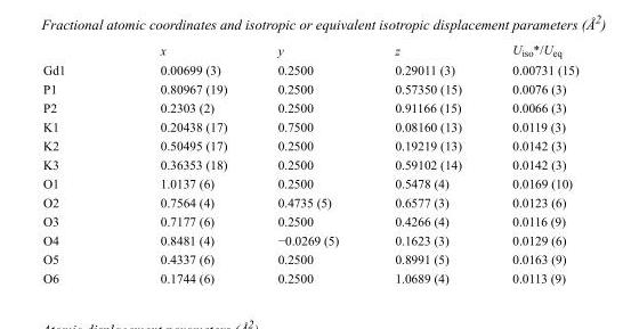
<table><thead><tr><td></td><td>x</td><td>y</td><td>z</td><td>U<sub>iso</sub>*/U<sub>eq</sub></td></tr></thead><tbody><tr><td>Gd1</td><td>0.00699 (3)</td><td>0.2500</td><td>0.29011 (3)</td><td>0.00731 (15)</td></tr><tr><td>P1</td><td>0.80967 (19)</td><td>0.2500</td><td>0.57350 (15)</td><td>0.0076 (3)</td></tr><tr><td>P2</td><td>0.2303 (2)</td><td>0.2500</td><td>0.91166 (15)</td><td>0.0066 (3)</td></tr><tr><td>K1</td><td>0.20438 (17)</td><td>0.7500</td><td>0.08160 (13)</td><td>0.0119 (3)</td></tr><tr><td>K2</td><td>0.50495 (17)</td><td>0.2500</td><td>0.19219 (13)</td><td>0.0142 (3)</td></tr><tr><td>K3</td><td>0.36353 (18)</td><td>0.2500</td><td>0.59102 (14)</td><td>0.0142 (3)</td></tr><tr><td>O1</td><td>1.0137 (6)</td><td>0.2500</td><td>0.5478 (4)</td><td>0.0169 (10)</td></tr><tr><td>O2</td><td>0.7564 (4)</td><td>0.4735 (5)</td><td>0.6577 (3)</td><td>0.0123 (6)</td></tr><tr><td>O3</td><td>0.7177 (6)</td><td>0.2500</td><td>0.4266 (4)</td><td>0.0116 (9)</td></tr><tr><td>O4</td><td>0.8481 (4)</td><td>−0.0269 (5)</td><td>0.1623 (3)</td><td>0.0129 (6)</td></tr><tr><td>O5</td><td>0.4337 (6)</td><td>0.2500</td><td>0.8991 (5)</td><td>0.0163 (9)</td></tr><tr><td>O6</td><td>0.1744 (6)</td><td>0.2500</td><td>1.0689 (4)</td><td>0.0113 (9)</td></tr></tbody></table>